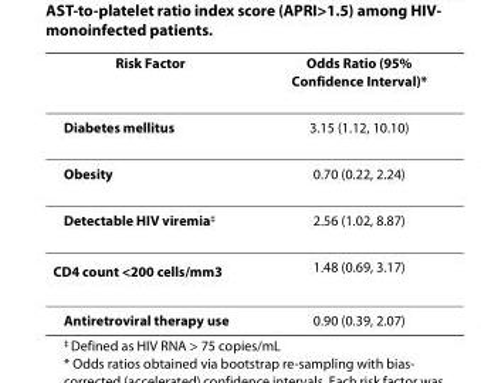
<table><thead><tr><td>Risk Factor</td><td>Odds Ratio (95% Confidence Interval)*</td></tr></thead><tbody><tr><td>Diabetes mellitus</td><td>3.15 (1.12, 10.10)</td></tr><tr><td>Obesity</td><td>0.70 (0.22, 2.24)</td></tr><tr><td>Detectable HIV viremia<sup>‡</sup></td><td>2.56 (1.02, 8.87)</td></tr><tr><td>CD4 count &lt;200 cells/mm<sup>3</sup></td><td>1.48 (0.69, 3.17)</td></tr><tr><td>Antiretroviral therapy use</td><td>0.90 (0.39, 2.07)</td></tr></tbody></table>